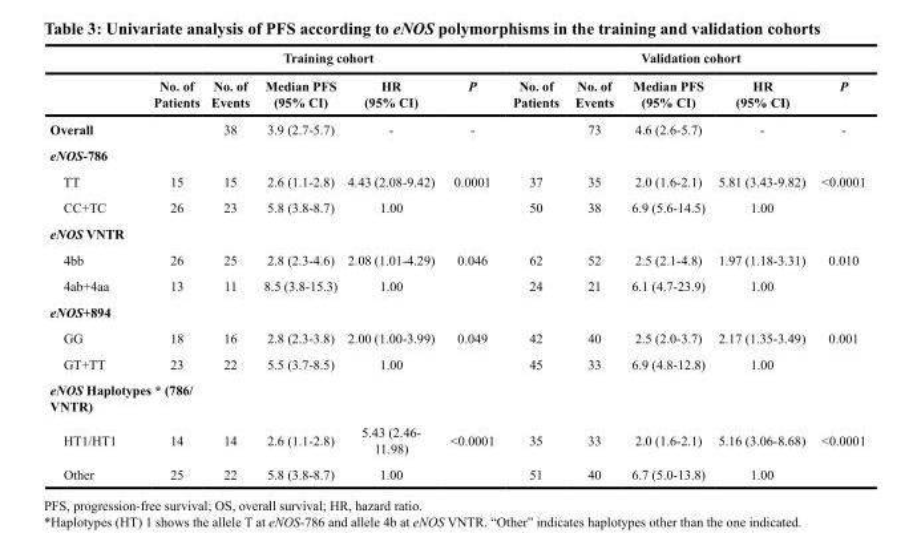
<table><thead><tr><td rowspan="2"></td><td colspan="5">Training cohort</td><td colspan="5">Validation cohort</td></tr><tr><td>No. of Patients</td><td>No. of Events</td><td>Median PFS (95% CI)</td><td>HR (95% CI)</td><td>P</td><td>No. of Patients</td><td>No. of Events</td><td>Median PFS (95% CI)</td><td>HR (95% CI)</td><td>P</td></tr></thead><tbody><tr><td>Overall</td><td></td><td>38</td><td>3.9 (2.7-5.7)</td><td>-</td><td>-</td><td></td><td>73</td><td>4.6 (2.6-5.7)</td><td>-</td><td>-</td></tr><tr><td colspan="11">eNOS-786</td></tr><tr><td>TT</td><td>15</td><td>15</td><td>2.6 (1.1-2.8)</td><td>4.43 (2.08-9.42)</td><td>0.0001</td><td>37</td><td>35</td><td>2.0 (1.6-2.1)</td><td>5.81 (3.43-9.82)</td><td>&lt;0.0001</td></tr><tr><td>CC+TC</td><td>26</td><td>23</td><td>5.8 (3.8-8.7)</td><td>1.00</td><td></td><td>50</td><td>38</td><td>6.9 (5.6-14.5)</td><td>1.00</td><td></td></tr><tr><td colspan="11">eNOS VNTR</td></tr><tr><td>4bb</td><td>26</td><td>25</td><td>2.8 (2.3-4.6)</td><td>2.08 (1.01-4.29)</td><td>0.046</td><td>62</td><td>52</td><td>2.5 (2.1-4.8)</td><td>1.97 (1.18-3.31)</td><td>0.010</td></tr><tr><td>4ab+4aa</td><td>13</td><td>11</td><td>8.5 (3.8-15.3)</td><td>1.00</td><td></td><td>24</td><td>21</td><td>6.1 (4.7-23.9)</td><td>1.00</td><td></td></tr><tr><td colspan="11">eNOS+894</td></tr><tr><td>GG</td><td>18</td><td>16</td><td>2.8 (2.3-3.8)</td><td>2.00 (1.00-3.99)</td><td>0.049</td><td>42</td><td>40</td><td>2.5 (2.0-3.7)</td><td>2.17 (1.35-3.49)</td><td>0.001</td></tr><tr><td>GT+TT</td><td>23</td><td>22</td><td>5.5 (3.7-8.5)</td><td>1.00</td><td></td><td>45</td><td>33</td><td>6.9 (4.8-12.8)</td><td>1.00</td><td></td></tr><tr><td colspan="11">eNOS Haplotypes * (786/ VNTR)</td></tr><tr><td>HT1/HT1</td><td>14</td><td>14</td><td>2.6 (1.1-2.8)</td><td>5.43 (2.46- 11.98)</td><td>&lt;0.0001</td><td>35</td><td>33</td><td>2.0 (1.6-2.1)</td><td>5.16 (3.06-8.68)</td><td>&lt;0.0001</td></tr><tr><td>Other</td><td>25</td><td>22</td><td>5.8 (3.8-8.7)</td><td>1.00</td><td></td><td>51</td><td>40</td><td>6.7 (5.0-13.8)</td><td>1.00</td><td></td></tr></tbody></table>